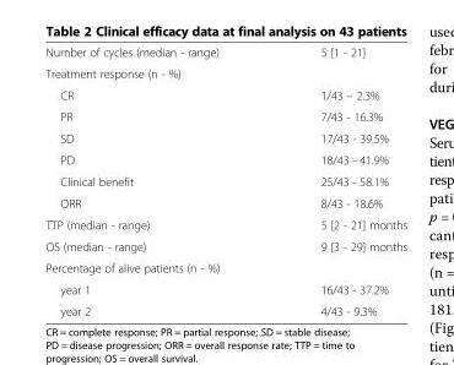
<table><tbody><tr><td>Number of cycles (median - range)</td><td>5 [1 - 21]</td></tr><tr><td colspan="2">Treatment response (n - %)</td></tr><tr><td>CR</td><td>1/43 – 2.3%</td></tr><tr><td>PR</td><td>7/43 - 16.3%</td></tr><tr><td>SD</td><td>17/43 - 39.5%</td></tr><tr><td>PD</td><td>18/43 - 41.9%</td></tr><tr><td>Clinical benefit</td><td>25/43 - 58.1%</td></tr><tr><td>ORR</td><td>8/43 - 18.6%</td></tr><tr><td>TTP (median - range)</td><td>5 [2 - 21] months</td></tr><tr><td>OS (median - range)</td><td>9 [3 - 29] months</td></tr><tr><td colspan="2">Percentage of alive patients (n - %)</td></tr><tr><td>year 1</td><td>16/43 - 37.2%</td></tr><tr><td>year 2</td><td>4/43 - 9.3%</td></tr></tbody></table>